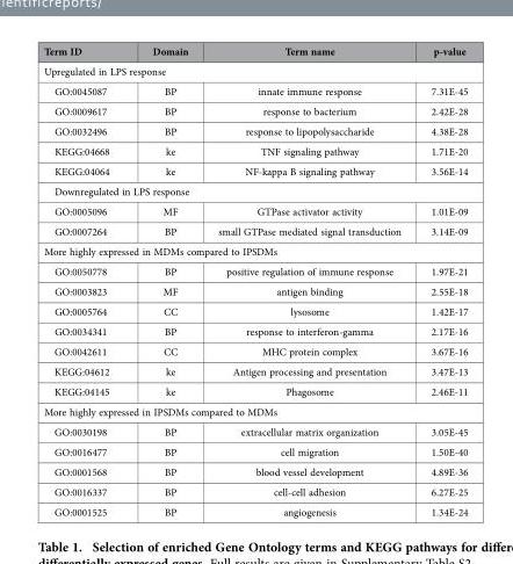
<table><thead><tr><td>Term ID</td><td>Domain</td><td>Term name</td><td>p-value</td></tr></thead><tbody><tr><td colspan="4">Upregulated in LPS response</td></tr><tr><td>GO:0045087</td><td>BP</td><td>innate immune response</td><td>7.31E-45</td></tr><tr><td>GO:0009617</td><td>BP</td><td>response to bacterium</td><td>2.42E-28</td></tr><tr><td>GO:0032496</td><td>BP</td><td>response to lipopolysaccharide</td><td>4.38E-28</td></tr><tr><td>KEGG:04668</td><td>ke</td><td>TNF signaling pathway</td><td>1.71E-20</td></tr><tr><td>KEGG:04064</td><td>ke</td><td>NF-kappa B signaling pathway</td><td>3.56E-14</td></tr><tr><td colspan="4">Downregulated in LPS response</td></tr><tr><td>GO:0005096</td><td>MF</td><td>GTPase activator activity</td><td>1.01E-09</td></tr><tr><td>GO:0007264</td><td>BP</td><td>small GTPase mediated signal transduction</td><td>3.14E-09</td></tr><tr><td colspan="4">More highly expressed in MDMs compared to IPSDMs</td></tr><tr><td>GO:0050778</td><td>BP</td><td>positive regulation of immune response</td><td>1.97E-21</td></tr><tr><td>GO:0003823</td><td>MF</td><td>antigen binding</td><td>2.55E-18</td></tr><tr><td>GO:0005764</td><td>CC</td><td>lysosome</td><td>1.42E-17</td></tr><tr><td>GO:0034341</td><td>BP</td><td>response to interferon-gamma</td><td>2.17E-16</td></tr><tr><td>GO:0042611</td><td>CC</td><td>MHC protein complex</td><td>3.67E-16</td></tr><tr><td>KEGG:04612</td><td>ke</td><td>Antigen processing and presentation</td><td>3.47E-13</td></tr><tr><td>KEGG:04145</td><td>ke</td><td>Phagosome</td><td>2.46E-11</td></tr><tr><td colspan="4">More highly expressed in IPSDMs compared to MDMs</td></tr><tr><td>GO:0030198</td><td>BP</td><td>extracellular matrix organization</td><td>3.05E-45</td></tr><tr><td>GO:0016477</td><td>BP</td><td>cell migration</td><td>1.50E-40</td></tr><tr><td>GO:0001568</td><td>BP</td><td>blood vessel development</td><td>4.89E-36</td></tr><tr><td>GO:0016337</td><td>BP</td><td>cell-cell adhesion</td><td>6.27E-25</td></tr><tr><td>GO:0001525</td><td>BP</td><td>angiogenesis</td><td>1.34E-24</td></tr></tbody></table>